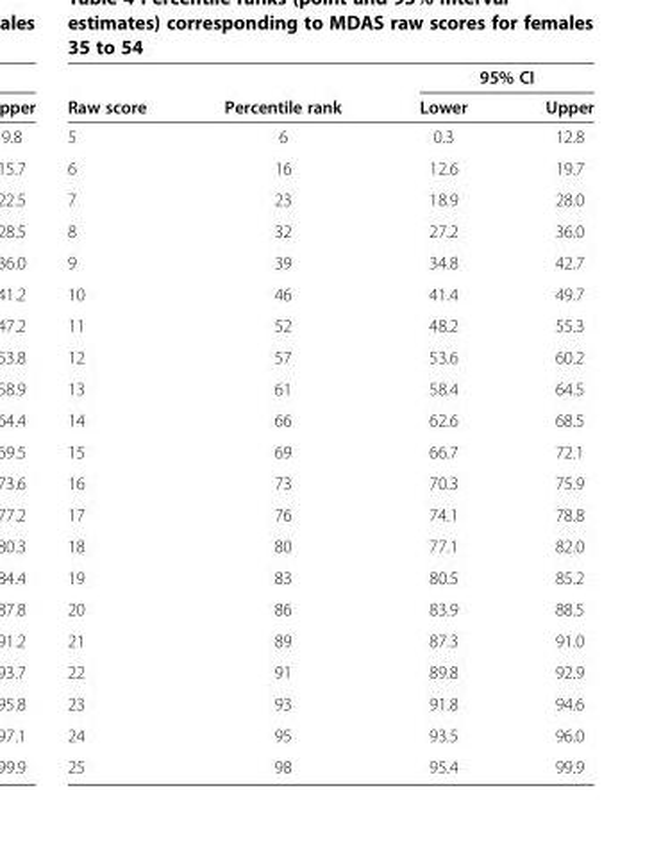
<table><thead><tr><td rowspan="2">Raw score</td><td rowspan="2">Percentile rank</td><td colspan="2">95% CI</td></tr><tr><td>Lower</td><td>Upper</td></tr></thead><tbody><tr><td>5</td><td>6</td><td>0.3</td><td>12.8</td></tr><tr><td>6</td><td>16</td><td>12.6</td><td>19.7</td></tr><tr><td>7</td><td>23</td><td>18.9</td><td>28.0</td></tr><tr><td>8</td><td>32</td><td>27.2</td><td>36.0</td></tr><tr><td>9</td><td>39</td><td>34.8</td><td>42.7</td></tr><tr><td>10</td><td>46</td><td>41.4</td><td>49.7</td></tr><tr><td>11</td><td>52</td><td>48.2</td><td>55.3</td></tr><tr><td>12</td><td>57</td><td>53.6</td><td>60.2</td></tr><tr><td>13</td><td>61</td><td>58.4</td><td>64.5</td></tr><tr><td>14</td><td>66</td><td>62.6</td><td>68.5</td></tr><tr><td>15</td><td>69</td><td>66.7</td><td>72.1</td></tr><tr><td>16</td><td>73</td><td>70.3</td><td>75.9</td></tr><tr><td>17</td><td>76</td><td>74.1</td><td>78.8</td></tr><tr><td>18</td><td>80</td><td>77.1</td><td>82.0</td></tr><tr><td>19</td><td>83</td><td>80.5</td><td>85.2</td></tr><tr><td>20</td><td>86</td><td>83.9</td><td>88.5</td></tr><tr><td>21</td><td>89</td><td>87.3</td><td>91.0</td></tr><tr><td>22</td><td>91</td><td>89.8</td><td>92.9</td></tr><tr><td>23</td><td>93</td><td>91.8</td><td>94.6</td></tr><tr><td>24</td><td>95</td><td>93.5</td><td>96.0</td></tr><tr><td>25</td><td>98</td><td>95.4</td><td>99.9</td></tr></tbody></table>